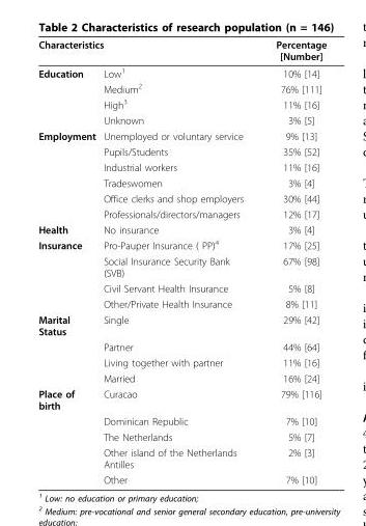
<table><thead><tr><td colspan="2">Characteristics</td><td rowspan="2">Percentage [Number] 10% [14]</td></tr><tr><td>Education</td><td>Low<sup>1</sup></td></tr></thead><tbody><tr><td></td><td>Medium<sup>2</sup></td><td>76% [111]</td></tr><tr><td></td><td>High<sup>3</sup></td><td>11% [16]</td></tr><tr><td></td><td>Unknown</td><td>3% [5]</td></tr><tr><td rowspan="6">Employment</td><td>Unemployed or voluntary service</td><td>9% [13]</td></tr><tr><td>Pupils/Students</td><td>35% [52]</td></tr><tr><td>Industrial workers</td><td>11% [16]</td></tr><tr><td>Tradeswomen</td><td>3% [4]</td></tr><tr><td>Office clerks and shop employers</td><td>30% [44]</td></tr><tr><td>Professionals/directors/managers</td><td>12% [17]</td></tr><tr><td>Health</td><td>No insurance</td><td>3% [4]</td></tr><tr><td rowspan="4">Insurance</td><td>Pro-Pauper Insurance ( PP)<sup>4</sup></td><td>17% [25]</td></tr><tr><td>Social Insurance Security Bank (SVB)</td><td>67% [98]</td></tr><tr><td>Civil Servant Health Insurance</td><td>5% [8]</td></tr><tr><td>Other/Private Health Insurance</td><td>8% [11]</td></tr><tr><td rowspan="4">Marital Status</td><td>Single</td><td>29% [42]</td></tr><tr><td>Partner</td><td>44% [64]</td></tr><tr><td>Living together with partner</td><td>11% [16]</td></tr><tr><td>Married</td><td>16% [24]</td></tr><tr><td rowspan="5">Place of birth</td><td>Curacao</td><td>79% [116]</td></tr><tr><td>Dominican Republic</td><td>7% [10]</td></tr><tr><td>The Netherlands</td><td>5% [7]</td></tr><tr><td>Other island of the Netherlands Antilles</td><td>2% [3]</td></tr><tr><td>Other</td><td>7% [10]</td></tr></tbody></table>